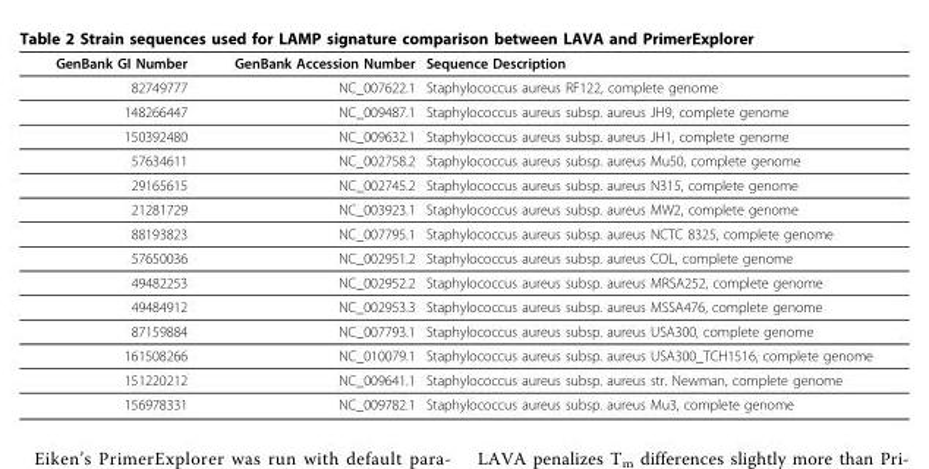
<table><thead><tr><td>GenBank GI Number</td><td>GenBank Accession Number</td><td>Sequence Description</td></tr></thead><tbody><tr><td>82749777</td><td>NC_007622.1</td><td>Staphylococcus aureus RF122, complete genome</td></tr><tr><td>148266447</td><td>NC_009487.1</td><td>Staphylococcus aureus subsp. aureus JH9, complete genome</td></tr><tr><td>150392480</td><td>NC_009632.1</td><td>Staphylococcus aureus subsp. aureus JH1, complete genome</td></tr><tr><td>57634611</td><td>NC_002758.2</td><td>Staphylococcus aureus subsp. aureus Mu50, complete genome</td></tr><tr><td>29165615</td><td>NC_002745.2</td><td>Staphylococcus aureus subsp. aureus N315, complete genome</td></tr><tr><td>21281729</td><td>NC_003923.1</td><td>Staphylococcus aureus subsp. aureus MW2, complete genome</td></tr><tr><td>88193823</td><td>NC_007795.1</td><td>Staphylococcus aureus subsp. aureus NCTC 8325, complete genome</td></tr><tr><td>57650036</td><td>NC_002951.2</td><td>Staphylococcus aureus subsp. aureus COL, complete genome</td></tr><tr><td>49482253</td><td>NC_002952.2</td><td>Staphylococcus aureus subsp. aureus MRSA252, complete genome</td></tr><tr><td>49484912</td><td>NC_002953.3</td><td>Staphylococcus aureus subsp. aureus MSSA476, complete genome</td></tr><tr><td>87159884</td><td>NC_007793.1</td><td>Staphylococcus aureus subsp. aureus USA300, complete genome</td></tr><tr><td>161508266</td><td>NC_010079.1</td><td>Staphylococcus aureus subsp. aureus USA300_TCH1516, complete genome</td></tr><tr><td>151220212</td><td>NC_009641.1</td><td>Staphylococcus aureus subsp. aureus str. Newman, complete genome</td></tr><tr><td>156978331</td><td>NC_009782.1</td><td>Staphylococcus aureus subsp. aureus Mu3, complete genome</td></tr></tbody></table>